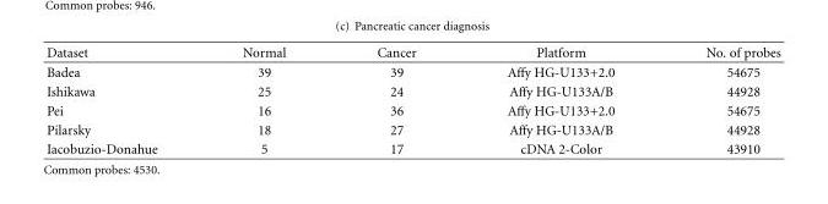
<table><thead><tr><td>Dataset</td><td>Normal</td><td>Cancer</td><td>Platform</td><td>No. of probes</td></tr></thead><tbody><tr><td>Badea</td><td>39</td><td>39</td><td>Affy HG-U133+2.0</td><td>54675</td></tr><tr><td>Ishikawa</td><td>25</td><td>24</td><td>Affy HG-U133A/B</td><td>44928</td></tr><tr><td>Pei</td><td>16</td><td>36</td><td>Affy HG-U133+2.0</td><td>54675</td></tr><tr><td>Pilarsky</td><td>18</td><td>27</td><td>Affy HG-U133A/B</td><td>44928</td></tr><tr><td>Iacobuzio-Donahue</td><td>5</td><td>17</td><td>cDNA 2-Color</td><td>43910</td></tr></tbody></table>